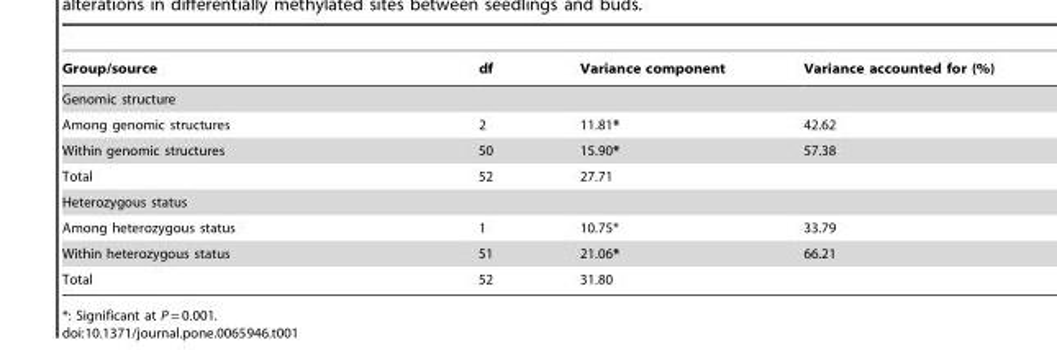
<table><thead><tr><td>Group/source</td><td>df</td><td>Variance component</td><td>Variance accounted for (%)</td></tr></thead><tbody><tr><td colspan="4">Genomic structure</td></tr><tr><td>Among genomic structures</td><td>2</td><td>11.81*</td><td>42.62</td></tr><tr><td>Within genomic structures</td><td>50</td><td>15.90*</td><td>57.38</td></tr><tr><td>Total</td><td>52</td><td>27.71</td><td></td></tr><tr><td colspan="4">Heterozygous status</td></tr><tr><td>Among heterozygous status</td><td>1</td><td>10.75*</td><td>33.79</td></tr><tr><td>Within heterozygous status</td><td>51</td><td>21.06*</td><td>66.21</td></tr><tr><td>Total</td><td>52</td><td>31.80</td><td></td></tr></tbody></table>